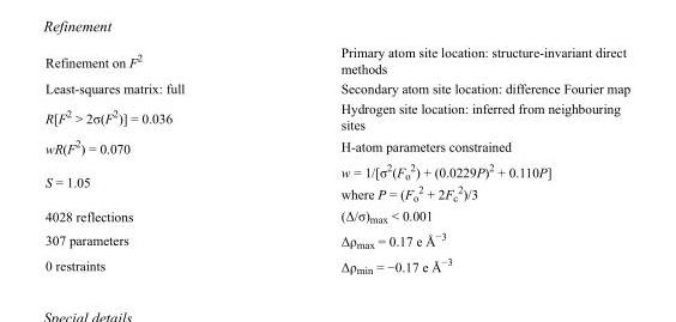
<table><tbody><tr><td>Refinement on F<sup>2</sup></td><td>Primary atom site location: structure-invariant direct methods</td></tr><tr><td>Least-squares matrix: full</td><td>Secondary atom site location: difference Fourier map</td></tr><tr><td>R[F<sup>2</sup> &gt; 2σ(F<sup>2</sup>)] = 0.036</td><td>Hydrogen site location: inferred from neighbouring sites</td></tr><tr><td>wR(F<sup>2</sup>) = 0.070</td><td>H-atom parameters constrained</td></tr><tr><td>S = 1.05</td><td>w = 1/[σ<sup>2</sup>(F<sub>o</sub> <sup>2</sup>) + (0.0229P)<sup>2</sup> + 0.110P] where P = (F<sub>o</sub> <sup>2</sup> + 2F<sub>c</sub> <sup>2</sup>)/3</td></tr><tr><td>4028 reflections</td><td>(Δ/σ)<sub>max</sub> &lt; 0.001</td></tr><tr><td>307 parameters</td><td>Δρ<sub>max</sub> = 0.17 e Å<sup>−3</sup></td></tr><tr><td>0 restraints</td><td>Δρ<sub>min</sub> = −0.17 e Å<sup>−3</sup></td></tr></tbody></table>